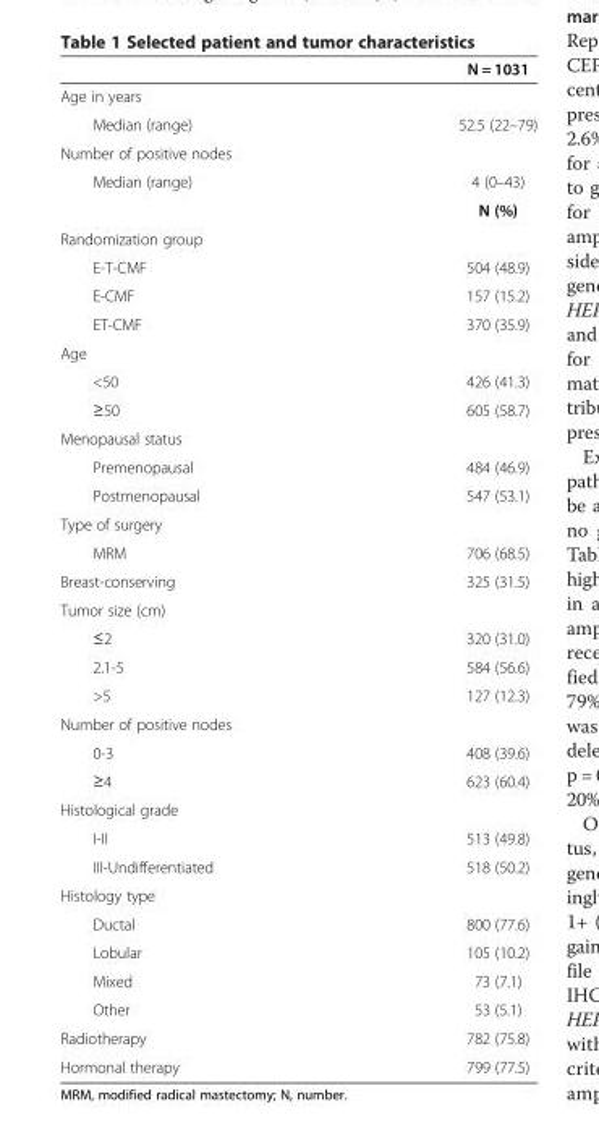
<table><thead><tr><td></td><td>N = 1031</td></tr></thead><tbody><tr><td colspan="2">Age in years</td></tr><tr><td>Median (range)</td><td>52.5 (22–79)</td></tr><tr><td colspan="2">Number of positive nodes</td></tr><tr><td rowspan="2">Median (range)</td><td>4 (0–43)</td></tr><tr><td>N (%)</td></tr><tr><td colspan="2">Randomization group</td></tr><tr><td>E-T-CMF</td><td>504 (48.9)</td></tr><tr><td>E-CMF</td><td>157 (15.2)</td></tr><tr><td>ET-CMF</td><td>370 (35.9)</td></tr><tr><td colspan="2">Age</td></tr><tr><td>&lt;50</td><td>426 (41.3)</td></tr><tr><td>≥50</td><td>605 (58.7)</td></tr><tr><td colspan="2">Menopausal status</td></tr><tr><td>Premenopausal</td><td>484 (46.9)</td></tr><tr><td>Postmenopausal</td><td>547 (53.1)</td></tr><tr><td colspan="2">Type of surgery</td></tr><tr><td>MRM</td><td>706 (68.5)</td></tr><tr><td>Breast-conserving</td><td>325 (31.5)</td></tr><tr><td colspan="2">Tumor size (cm)</td></tr><tr><td>≤2</td><td>320 (31.0)</td></tr><tr><td>2.1-5</td><td>584 (56.6)</td></tr><tr><td>&gt;5</td><td>127 (12.3)</td></tr><tr><td colspan="2">Number of positive nodes</td></tr><tr><td>0-3</td><td>408 (39.6)</td></tr><tr><td>≥4</td><td>623 (60.4)</td></tr><tr><td colspan="2">Histological grade</td></tr><tr><td>I-II</td><td>513 (49.8)</td></tr><tr><td>III-Undifferentiated</td><td>518 (50.2)</td></tr><tr><td colspan="2">Histology type</td></tr><tr><td>Ductal</td><td>800 (77.6)</td></tr><tr><td>Lobular</td><td>105 (10.2)</td></tr><tr><td>Mixed</td><td>73 (7.1)</td></tr><tr><td>Other</td><td>53 (5.1)</td></tr><tr><td>Radiotherapy</td><td>782 (75.8)</td></tr><tr><td>Hormonal therapy</td><td>799 (77.5)</td></tr></tbody></table>